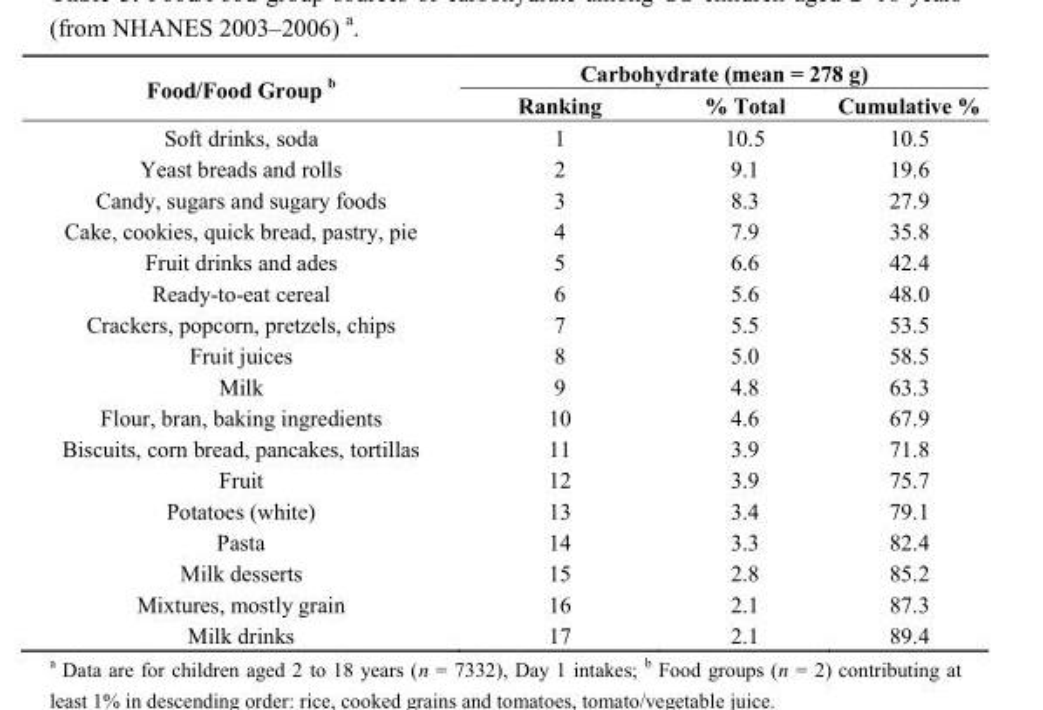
<table><thead><tr><td rowspan="2">Food/Food Group <sup>b</sup></td><td colspan="3">Carbohydrate (mean = 278 g)</td></tr><tr><td>Ranking</td><td>% Total</td><td>Cumulative %</td></tr></thead><tbody><tr><td>Soft drinks, soda</td><td>1</td><td>10.5</td><td>10.5</td></tr><tr><td>Yeast breads and rolls</td><td>2</td><td>9.1</td><td>19.6</td></tr><tr><td>Candy, sugars and sugary foods</td><td>3</td><td>8.3</td><td>27.9</td></tr><tr><td>Cake, cookies, quick bread, pastry, pie</td><td>4</td><td>7.9</td><td>35.8</td></tr><tr><td>Fruit drinks and ades</td><td>5</td><td>6.6</td><td>42.4</td></tr><tr><td>Ready-to-eat cereal</td><td>6</td><td>5.6</td><td>48.0</td></tr><tr><td>Crackers, popcorn, pretzels, chips</td><td>7</td><td>5.5</td><td>53.5</td></tr><tr><td>Fruit juices</td><td>8</td><td>5.0</td><td>58.5</td></tr><tr><td>Milk</td><td>9</td><td>4.8</td><td>63.3</td></tr><tr><td>Flour, bran, baking ingredients</td><td>10</td><td>4.6</td><td>67.9</td></tr><tr><td>Biscuits, corn bread, pancakes, tortillas</td><td>11</td><td>3.9</td><td>71.8</td></tr><tr><td>Fruit</td><td>12</td><td>3.9</td><td>75.7</td></tr><tr><td>Potatoes (white)</td><td>13</td><td>3.4</td><td>79.1</td></tr><tr><td>Pasta</td><td>14</td><td>3.3</td><td>82.4</td></tr><tr><td>Milk desserts</td><td>15</td><td>2.8</td><td>85.2</td></tr><tr><td>Mixtures, mostly grain</td><td>16</td><td>2.1</td><td>87.3</td></tr><tr><td>Milk drinks</td><td>17</td><td>2.1</td><td>89.4</td></tr></tbody></table>